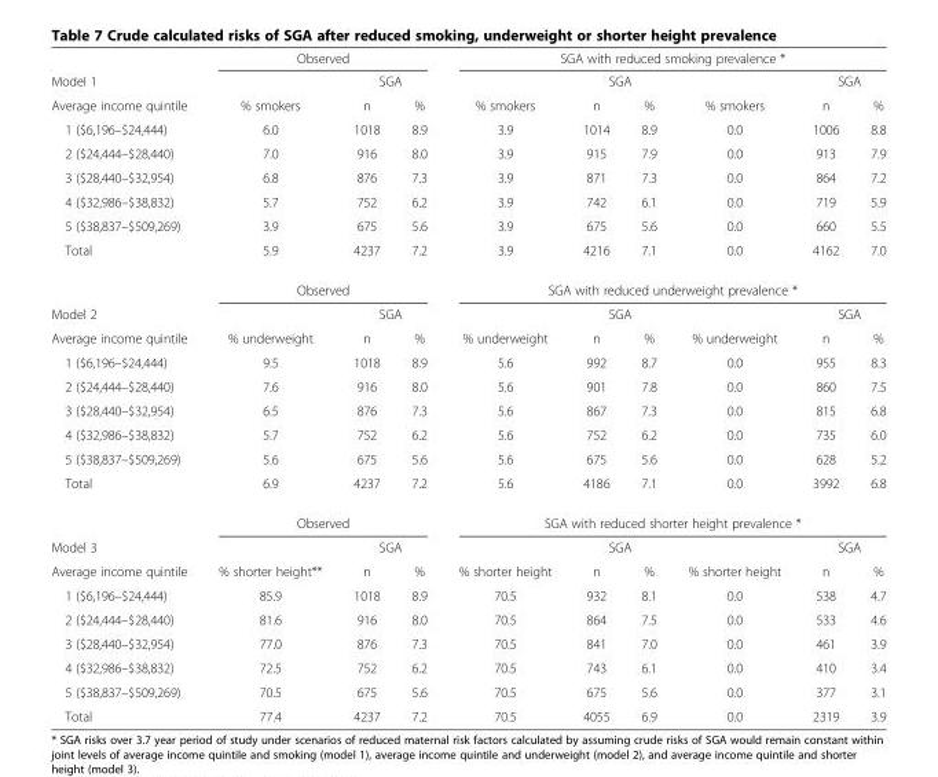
<table><thead><tr><td rowspan="3">Model 1 Average income quintile</td><td rowspan="3">Observed % smokers</td><td></td><td></td><td colspan="6">SGA with reduced smoking prevalence *</td></tr><tr><td colspan="2">SGA</td><td rowspan="2">% smokers</td><td colspan="2">SGA</td><td rowspan="2">% smokers</td><td colspan="2">SGA</td></tr><tr><td>n</td><td>%</td><td>n</td><td>%</td><td>n</td><td>%</td></tr></thead><tbody><tr><td>1 ($6,196–$24,444)</td><td>6.0</td><td>1018</td><td>8.9</td><td>3.9</td><td>1014</td><td>8.9</td><td>0.0</td><td>1006</td><td>8.8</td></tr><tr><td>2 ($24,444–$28,440)</td><td>7.0</td><td>916</td><td>8.0</td><td>3.9</td><td>915</td><td>7.9</td><td>0.0</td><td>913</td><td>7.9</td></tr><tr><td>3 ($28,440–$32,954)</td><td>6.8</td><td>876</td><td>7.3</td><td>3.9</td><td>871</td><td>7.3</td><td>0.0</td><td>864</td><td>7.2</td></tr><tr><td>4 ($32,986–$38,832)</td><td>5.7</td><td>752</td><td>6.2</td><td>3.9</td><td>742</td><td>6.1</td><td>0.0</td><td>719</td><td>5.9</td></tr><tr><td>5 ($38,837–$509,269)</td><td>3.9</td><td>675</td><td>5.6</td><td>3.9</td><td>675</td><td>5.6</td><td>0.0</td><td>660</td><td>5.5</td></tr><tr><td rowspan="2">Total</td><td>5.9</td><td>4237</td><td>7.2</td><td>3.9</td><td>4216</td><td>7.1</td><td>0.0</td><td>4162</td><td>7.0</td></tr><tr><td>Observed</td><td></td><td></td><td colspan="6">SGA with reduced underweight prevalence *</td></tr><tr><td>Model 2</td><td></td><td colspan="2">SGA</td><td></td><td colspan="2">SGA</td><td></td><td colspan="2">SGA</td></tr><tr><td>Average income quintile</td><td>% underweight</td><td>n</td><td>%</td><td>% underweight</td><td>n</td><td>%</td><td>% underweight</td><td>n</td><td>%</td></tr><tr><td>1 ($6,196–$24,444)</td><td>9.5</td><td>1018</td><td>8.9</td><td>5.6</td><td>992</td><td>8.7</td><td>0.0</td><td>955</td><td>8.3</td></tr><tr><td>2 ($24,444–$28,440)</td><td>7.6</td><td>916</td><td>8.0</td><td>5.6</td><td>901</td><td>7.8</td><td>0.0</td><td>860</td><td>7.5</td></tr><tr><td>3 ($28,440–$32,954)</td><td>6.5</td><td>876</td><td>7.3</td><td>5.6</td><td>867</td><td>7.3</td><td>0.0</td><td>815</td><td>6.8</td></tr><tr><td>4 ($32,986–$38,832)</td><td>5.7</td><td>752</td><td>6.2</td><td>5.6</td><td>752</td><td>6.2</td><td>0.0</td><td>735</td><td>6.0</td></tr><tr><td>5 ($38,837–$509,269)</td><td>5.6</td><td>675</td><td>5.6</td><td>5.6</td><td>675</td><td>5.6</td><td>0.0</td><td>628</td><td>5.2</td></tr><tr><td rowspan="2">Total</td><td>6.9</td><td>4237</td><td>7.2</td><td>5.6</td><td>4186</td><td>7.1</td><td>0.0</td><td>3992</td><td>6.8</td></tr><tr><td>Observed</td><td></td><td></td><td colspan="6">SGA with reduced shorter height prevalence *</td></tr><tr><td>Model 3</td><td></td><td colspan="2">SGA</td><td></td><td colspan="2">SGA</td><td></td><td colspan="2">SGA</td></tr><tr><td>Average income quintile</td><td>% shorter height**</td><td>n</td><td>%</td><td>% shorter height</td><td>n</td><td>%</td><td>% shorter height</td><td>n</td><td>%</td></tr><tr><td>1 ($6,196–$24,444)</td><td>85.9</td><td>1018</td><td>8.9</td><td>70.5</td><td>932</td><td>8.1</td><td>0.0</td><td>538</td><td>4.7</td></tr><tr><td>2 ($24,444–$28,440)</td><td>81.6</td><td>916</td><td>8.0</td><td>70.5</td><td>864</td><td>7.5</td><td>0.0</td><td>533</td><td>4.6</td></tr><tr><td>3 ($28,440–$32,954)</td><td>77.0</td><td>876</td><td>7.3</td><td>70.5</td><td>841</td><td>7.0</td><td>0.0</td><td>461</td><td>3.9</td></tr><tr><td>4 ($32,986–$38,832)</td><td>72.5</td><td>752</td><td>6.2</td><td>70.5</td><td>743</td><td>6.1</td><td>0.0</td><td>410</td><td>3.4</td></tr><tr><td>5 ($38,837–$509,269)</td><td>70.5</td><td>675</td><td>5.6</td><td>70.5</td><td>675</td><td>5.6</td><td>0.0</td><td>377</td><td>3.1</td></tr><tr><td>Total</td><td>77.4</td><td>4237</td><td>7.2</td><td>70.5</td><td>4055</td><td>6.9</td><td>0.0</td><td>2319</td><td>3.9</td></tr></tbody></table>